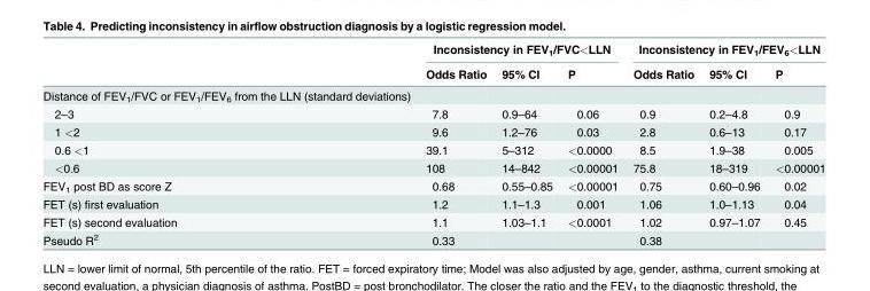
<table><thead><tr><td rowspan="2"></td><td colspan="3">Inconsistency in FEV<sub>1</sub>/FVC&lt;LLN</td><td colspan="3">Inconsistency in FEV<sub>1</sub>/FEV<sub>6</sub>&lt;LLN</td></tr><tr><td>Odds Ratio</td><td>95% CI</td><td>P</td><td>Odds Ratio</td><td>95% CI</td><td>P</td></tr></thead><tbody><tr><td colspan="7">Distance of FEV<sub>1</sub>/FVC or FEV<sub>1</sub>/FEV<sub>6</sub> from the LLN (standard deviations)</td></tr><tr><td>2–3</td><td>7.8</td><td>0.9–64</td><td>0.06</td><td>0.9</td><td>0.2–4.8</td><td>0.9</td></tr><tr><td>1 &lt;2</td><td>9.6</td><td>1.2–76</td><td>0.03</td><td>2.8</td><td>0.6–13</td><td>0.17</td></tr><tr><td>0.6 &lt;1</td><td>39.1</td><td>5–312</td><td>&lt;0.0000</td><td>8.5</td><td>1.9–38</td><td>0.005</td></tr><tr><td>&lt;0.6</td><td>108</td><td>14–842</td><td>&lt;0.00001</td><td>75.8</td><td>18–319</td><td>&lt;0.00001</td></tr><tr><td>FEV<sub>1</sub> post BD as score Z</td><td>0.68</td><td>0.55–0.85</td><td>&lt;0.00001</td><td>0.75</td><td>0.60–0.96</td><td>0.02</td></tr><tr><td>FET (s) first evaluation</td><td>1.2</td><td>1.1–1.3</td><td>0.001</td><td>1.06</td><td>1.0–1.13</td><td>0.04</td></tr><tr><td>FET (s) second evaluation</td><td>1.1</td><td>1.03–1.1</td><td>&lt;0.0001</td><td>1.02</td><td>0.97–1.07</td><td>0.45</td></tr><tr><td>Pseudo R<sup>2</sup></td><td>0.33</td><td></td><td></td><td>0.38</td><td></td><td></td></tr></tbody></table>